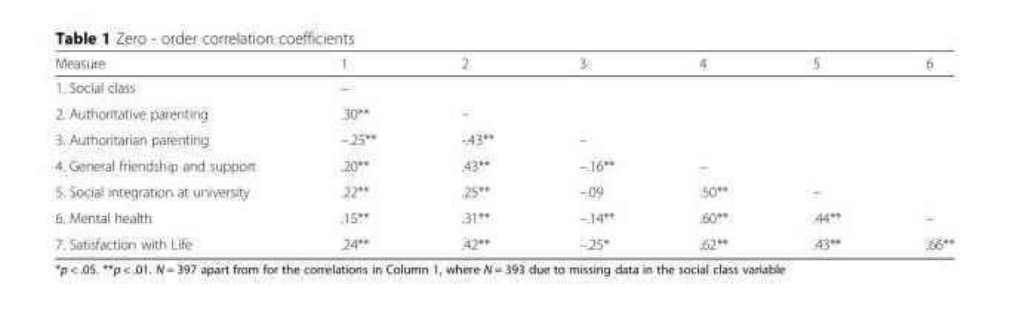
<table><thead><tr><td>Measure</td><td>1</td><td>2</td><td>3</td><td>4</td><td>5</td><td>6</td></tr></thead><tbody><tr><td>1. Social class</td><td>–</td><td></td><td></td><td></td><td></td><td></td></tr><tr><td>2. Authoritative parenting</td><td>.30**</td><td>–</td><td></td><td></td><td></td><td></td></tr><tr><td>3. Authoritarian parenting</td><td>–.25**</td><td>-.43**</td><td>–</td><td></td><td></td><td></td></tr><tr><td>4. General friendship and support</td><td>.20**</td><td>.43**</td><td>–.16**</td><td>–</td><td></td><td></td></tr><tr><td>5. Social integration at university</td><td>.22**</td><td>.25**</td><td>–.09</td><td>.50**</td><td>–</td><td></td></tr><tr><td>6. Mental health</td><td>.15**</td><td>.31**</td><td>–.14**</td><td>.60**</td><td>.44**</td><td>–</td></tr><tr><td>7. Satisfaction with Life</td><td>.24**</td><td>.42**</td><td>–.25*</td><td>.62**</td><td>.43**</td><td>.66**</td></tr></tbody></table>